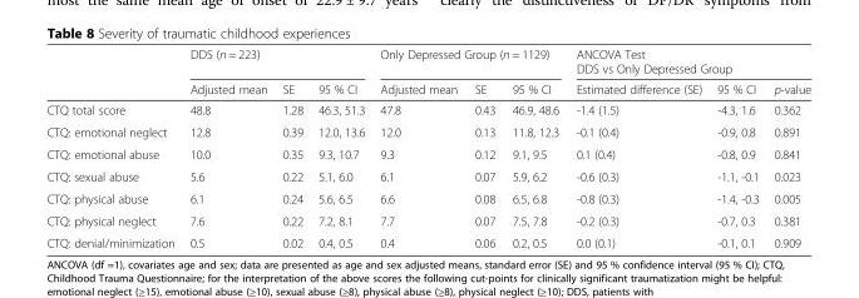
<table><thead><tr><td rowspan="2"></td><td colspan="3">DDS (n = 223)</td><td colspan="3">Only Depressed Group (n = 1129)</td><td colspan="3">ANCOVA Test DDS vs Only Depressed Group</td></tr><tr><td>Adjusted mean</td><td>SE</td><td>95 % CI</td><td>Adjusted mean</td><td>SE</td><td>95 % CI</td><td>Estimated difference (SE)</td><td>95 % CI</td><td>p-value</td></tr></thead><tbody><tr><td>CTQ total score</td><td>48.8</td><td>1.28</td><td>46.3, 51.3</td><td>47.8</td><td>0.43</td><td>46.9, 48.6</td><td>-1.4 (1.5)</td><td>-4.3, 1.6</td><td>0.362</td></tr><tr><td>CTQ: emotional neglect</td><td>12.8</td><td>0.39</td><td>12.0, 13.6</td><td>12.0</td><td>0.13</td><td>11.8, 12.3</td><td>-0.1 (0.4)</td><td>-0.9, 0.8</td><td>0.891</td></tr><tr><td>CTQ: emotional abuse</td><td>10.0</td><td>0.35</td><td>9.3, 10.7</td><td>9.3</td><td>0.12</td><td>9.1, 9.5</td><td>0.1 (0.4)</td><td>-0.8, 0.9</td><td>0.841</td></tr><tr><td>CTQ: sexual abuse</td><td>5.6</td><td>0.22</td><td>5.1, 6.0</td><td>6.1</td><td>0.07</td><td>5.9, 6.2</td><td>-0.6 (0.3)</td><td>-1.1, -0.1</td><td>0.023</td></tr><tr><td>CTQ: physical abuse</td><td>6.1</td><td>0.24</td><td>5.6, 6.5</td><td>6.6</td><td>0.08</td><td>6.5, 6.8</td><td>-0.8 (0.3)</td><td>-1.4, -0.3</td><td>0.005</td></tr><tr><td>CTQ: physical neglect</td><td>7.6</td><td>0.22</td><td>7.2, 8.1</td><td>7.7</td><td>0.07</td><td>7.5, 7.8</td><td>-0.2 (0.3)</td><td>-0.7, 0.3</td><td>0.381</td></tr><tr><td>CTQ: denial/minimization</td><td>0.5</td><td>0.02</td><td>0.4, 0.5</td><td>0.4</td><td>0.06</td><td>0.2, 0.5</td><td>0.0 (0.1)</td><td>-0.1, 0.1</td><td>0.909</td></tr></tbody></table>